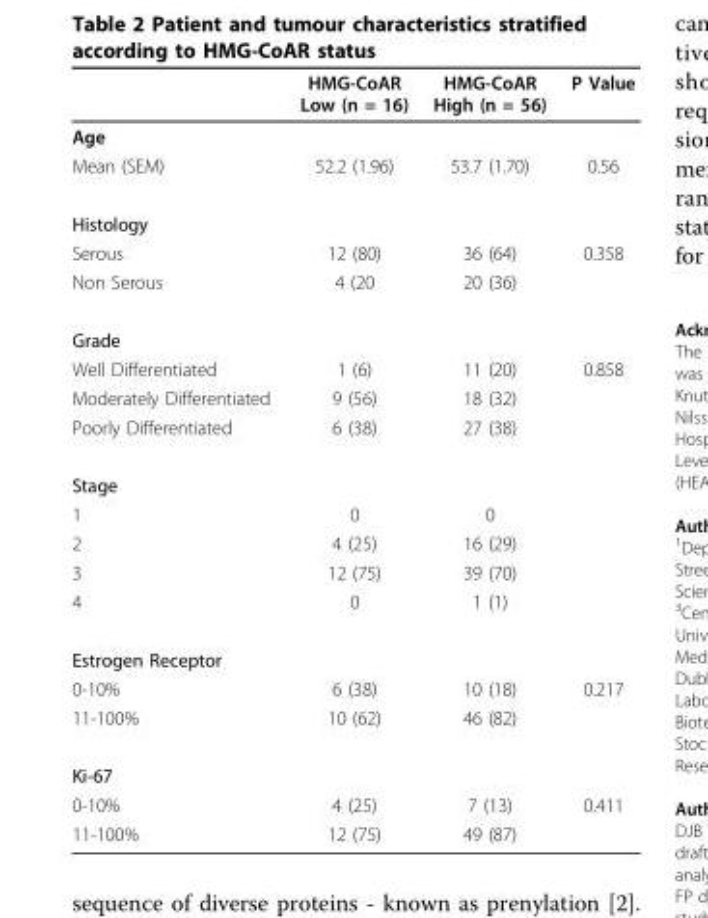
<table><thead><tr><td></td><td>HMG-CoAR Low (n = 16)</td><td>HMG-CoAR High (n = 56)</td><td>P Value</td></tr></thead><tbody><tr><td colspan="4">Age</td></tr><tr><td>Mean (SEM)</td><td>52.2 (1.96)</td><td>53.7 (1.70)</td><td>0.56</td></tr><tr><td colspan="4">Histology</td></tr><tr><td>Serous</td><td>12 (80)</td><td>36 (64)</td><td>0.358</td></tr><tr><td>Non Serous</td><td>4 (20</td><td>20 (36)</td><td></td></tr><tr><td colspan="4">Grade</td></tr><tr><td>Well Differentiated</td><td>1 (6)</td><td>11 (20)</td><td>0.858</td></tr><tr><td>Moderately Differentiated</td><td>9 (56)</td><td>18 (32)</td><td></td></tr><tr><td>Poorly Differentiated</td><td>6 (38)</td><td>27 (38)</td><td></td></tr><tr><td colspan="4">Stage</td></tr><tr><td>1</td><td>0</td><td>0</td><td></td></tr><tr><td>2</td><td>4 (25)</td><td>16 (29)</td><td></td></tr><tr><td>3</td><td>12 (75)</td><td>39 (70)</td><td></td></tr><tr><td>4</td><td>0</td><td>1 (1)</td><td></td></tr><tr><td colspan="4">Estrogen Receptor</td></tr><tr><td>0-10%</td><td>6 (38)</td><td>10 (18)</td><td>0.217</td></tr><tr><td>11-100%</td><td>10 (62)</td><td>46 (82)</td><td></td></tr><tr><td colspan="4">Ki-67</td></tr><tr><td>0-10%</td><td>4 (25)</td><td>7 (13)</td><td>0.411</td></tr><tr><td>11-100%</td><td>12 (75)</td><td>49 (87)</td><td></td></tr></tbody></table>